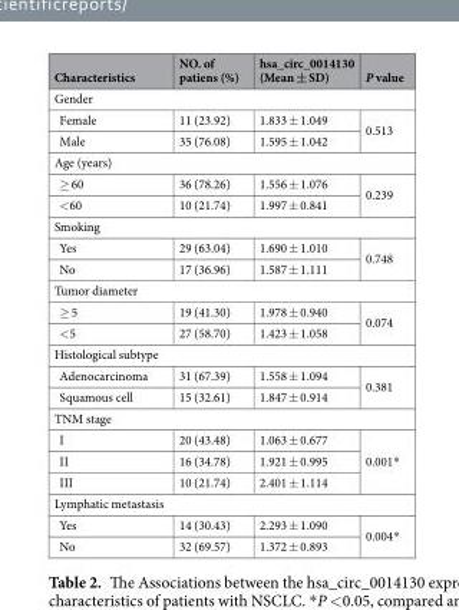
<table><thead><tr><td>Characteristics</td><td>NO. of patiens (%)</td><td>hsa_circ_0014130 (Mean ± SD)</td><td>P value</td></tr></thead><tbody><tr><td colspan="4">Gender</td></tr><tr><td>Female</td><td>11 (23.92)</td><td>1.833 ± 1.049</td><td rowspan="2">0.513</td></tr><tr><td>Male</td><td>35 (76.08)</td><td>1.595 ± 1.042</td></tr><tr><td colspan="4">Age (years)</td></tr><tr><td>≥ 60</td><td>36 (78.26)</td><td>1.556 ± 1.076</td><td rowspan="2">0.239</td></tr><tr><td>&lt;60</td><td>10 (21.74)</td><td>1.997 ± 0.841</td></tr><tr><td colspan="4">Smoking</td></tr><tr><td>Yes</td><td>29 (63.04)</td><td>1.690 ± 1.010</td><td rowspan="2">0.748</td></tr><tr><td>No</td><td>17 (36.96)</td><td>1.587 ± 1.111</td></tr><tr><td colspan="4">Tumor diameter</td></tr><tr><td>≥ 5</td><td>19 (41.30)</td><td>1.978 ± 0.940</td><td rowspan="2">0.074</td></tr><tr><td>&lt;5</td><td>27 (58.70)</td><td>1.423 ± 1.058</td></tr><tr><td colspan="4">Histological subtype</td></tr><tr><td>Adenocarcinoma</td><td>31 (67.39)</td><td>1.558 ± 1.094</td><td rowspan="2">0.381</td></tr><tr><td>Squamous cell</td><td>15 (32.61)</td><td>1.847 ± 0.914</td></tr><tr><td colspan="4">TNM stage</td></tr><tr><td>I</td><td>20 (43.48)</td><td>1.063 ± 0.677</td><td rowspan="3">0.001*</td></tr><tr><td>II</td><td>16 (34.78)</td><td>1.921 ± 0.995</td></tr><tr><td>III</td><td>10 (21.74)</td><td>2.401 ± 1.114</td></tr><tr><td colspan="4">Lymphatic metastasis</td></tr><tr><td>Yes</td><td>14 (30.43)</td><td>2.293 ± 1.090</td><td rowspan="2">0.004*</td></tr><tr><td>No</td><td>32 (69.57)</td><td>1.372 ± 0.893</td></tr></tbody></table>